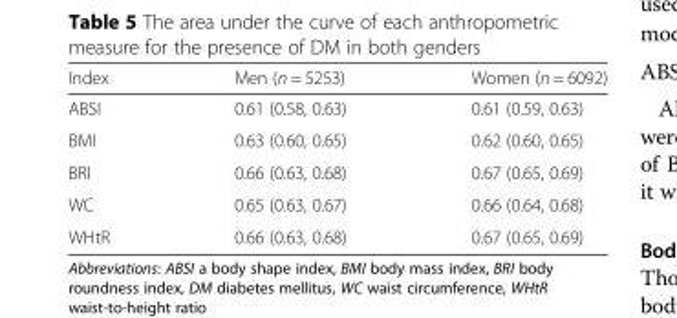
<table><thead><tr><td>Index</td><td>Men (n = 5253)</td><td>Women (n = 6092)</td></tr></thead><tbody><tr><td>ABSI</td><td>0.61 (0.58, 0.63)</td><td>0.61 (0.59, 0.63)</td></tr><tr><td>BMI</td><td>0.63 (0.60, 0.65)</td><td>0.62 (0.60, 0.65)</td></tr><tr><td>BRI</td><td>0.66 (0.63, 0.68)</td><td>0.67 (0.65, 0.69)</td></tr><tr><td>WC</td><td>0.65 (0.63, 0.67)</td><td>0.66 (0.64, 0.68)</td></tr><tr><td>WHtR</td><td>0.66 (0.63, 0.68)</td><td>0.67 (0.65, 0.69)</td></tr></tbody></table>